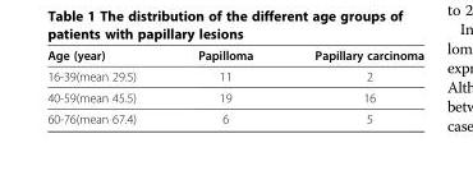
<table><thead><tr><td>Age (year)</td><td>Papilloma</td><td>Papillary carcinoma</td></tr></thead><tbody><tr><td>16-39(mean 29.5)</td><td>11</td><td>2</td></tr><tr><td>40-59(mean 45.5)</td><td>19</td><td>16</td></tr><tr><td>60-76(mean 67.4)</td><td>6</td><td>5</td></tr></tbody></table>